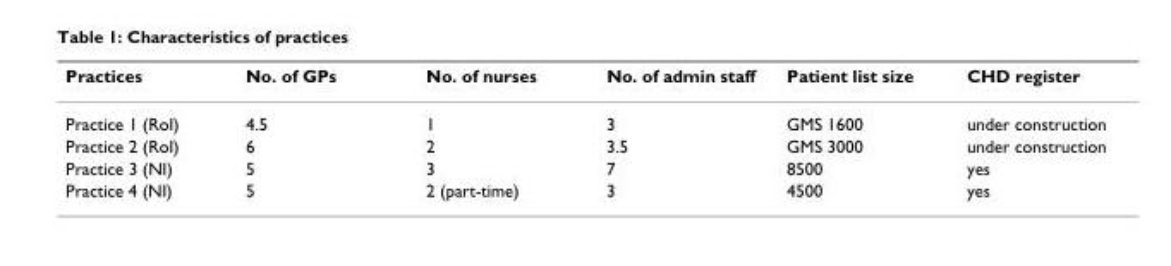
<table><thead><tr><td>Practices</td><td>No. of GPs</td><td>No. of nurses</td><td>No. of admin staff</td><td>Patient list size</td><td>CHD register</td></tr></thead><tbody><tr><td>Practice 1 (RoI)</td><td>4.5</td><td>1</td><td>3</td><td>GMS 1600</td><td>under construction</td></tr><tr><td>Practice 2 (RoI)</td><td>6</td><td>2</td><td>3.5</td><td>GMS 3000</td><td>under construction</td></tr><tr><td>Practice 3 (NI)</td><td>5</td><td>3</td><td>7</td><td>8500</td><td>yes</td></tr><tr><td>Practice 4 (NI)</td><td>5</td><td>2 (part-time)</td><td>3</td><td>4500</td><td>yes</td></tr></tbody></table>